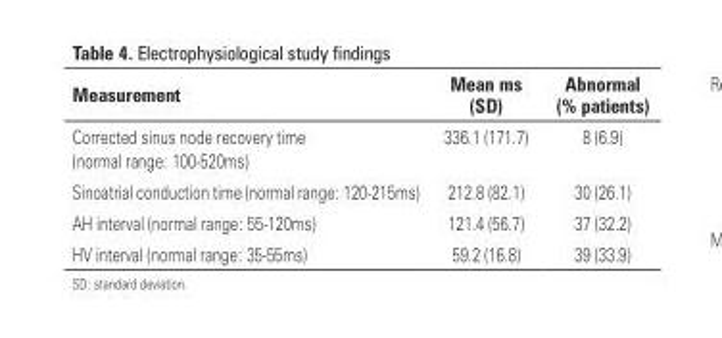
<table><thead><tr><td>Measurement</td><td>Mean ms (SD)</td><td>Abnormal (% patients)</td></tr></thead><tbody><tr><td>Corrected sinus node recovery time (normal range: 100-520ms)</td><td>336.1 (171.7)</td><td>8 (6.9)</td></tr><tr><td>Sinoatrial conduction time (normal range: 120-215ms)</td><td>212.8 (82.1)</td><td>30 (26.1)</td></tr><tr><td>AH interval (normal range: 55-120ms)</td><td>121.4 (56.7)</td><td>37 (32.2)</td></tr><tr><td>HV interval (normal range: 35-55ms)</td><td>59.2 (16.8)</td><td>39 (33.9)</td></tr></tbody></table>